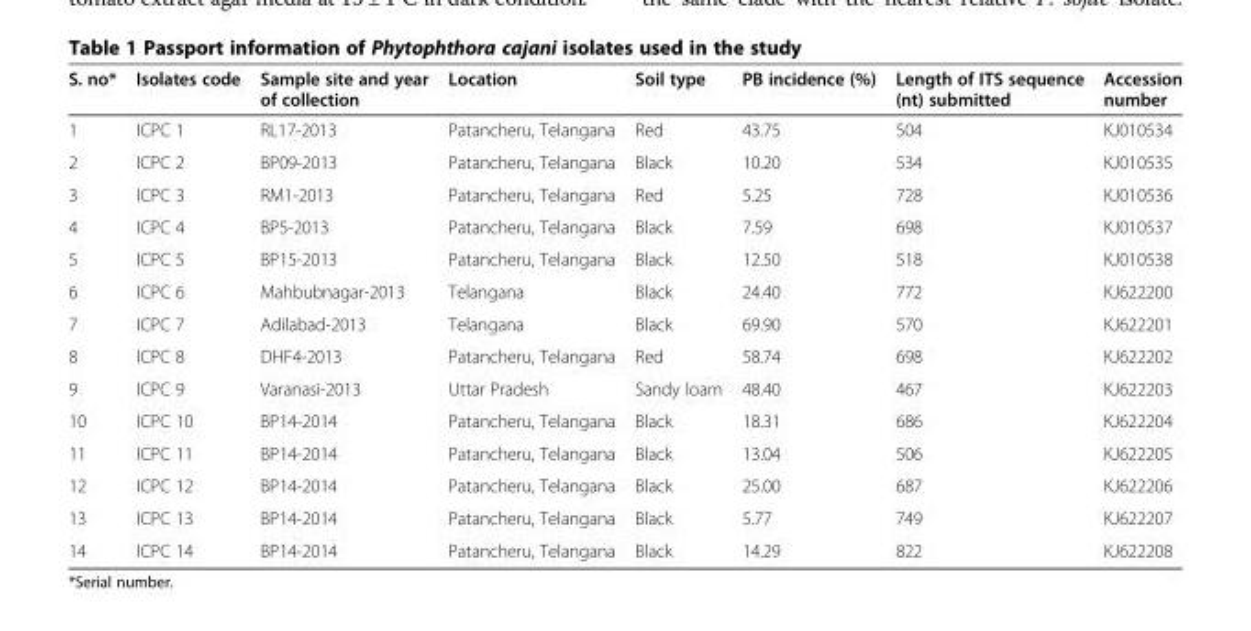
<table><thead><tr><td>S. no*</td><td>Isolates code</td><td>Sample site and year of collection</td><td>Location</td><td>Soil type</td><td>PB incidence (%)</td><td>Length of ITS sequence (nt) submitted</td><td>Accession number</td></tr></thead><tbody><tr><td>1</td><td>ICPC 1</td><td>RL17-2013</td><td>Patancheru, Telangana</td><td>Red</td><td>43.75</td><td>504</td><td>KJ010534</td></tr><tr><td>2</td><td>ICPC 2</td><td>BP09-2013</td><td>Patancheru, Telangana</td><td>Black</td><td>10.20</td><td>534</td><td>KJ010535</td></tr><tr><td>3</td><td>ICPC 3</td><td>RM1-2013</td><td>Patancheru, Telangana</td><td>Red</td><td>5.25</td><td>728</td><td>KJ010536</td></tr><tr><td>4</td><td>ICPC 4</td><td>BP5-2013</td><td>Patancheru, Telangana</td><td>Black</td><td>7.59</td><td>698</td><td>KJ010537</td></tr><tr><td>5</td><td>ICPC 5</td><td>BP15-2013</td><td>Patancheru, Telangana</td><td>Black</td><td>12.50</td><td>518</td><td>KJ010538</td></tr><tr><td>6</td><td>ICPC 6</td><td>Mahbubnagar-2013</td><td>Telangana</td><td>Black</td><td>24.40</td><td>772</td><td>KJ622200</td></tr><tr><td>7</td><td>ICPC 7</td><td>Adilabad-2013</td><td>Telangana</td><td>Black</td><td>69.90</td><td>570</td><td>KJ622201</td></tr><tr><td>8</td><td>ICPC 8</td><td>DHF4-2013</td><td>Patancheru, Telangana</td><td>Red</td><td>58.74</td><td>698</td><td>KJ622202</td></tr><tr><td>9</td><td>ICPC 9</td><td>Varanasi-2013</td><td>Uttar Pradesh</td><td>Sandy loam</td><td>48.40</td><td>467</td><td>KJ622203</td></tr><tr><td>10</td><td>ICPC 10</td><td>BP14-2014</td><td>Patancheru, Telangana</td><td>Black</td><td>18.31</td><td>686</td><td>KJ622204</td></tr><tr><td>11</td><td>ICPC 11</td><td>BP14-2014</td><td>Patancheru, Telangana</td><td>Black</td><td>13.04</td><td>506</td><td>KJ622205</td></tr><tr><td>12</td><td>ICPC 12</td><td>BP14-2014</td><td>Patancheru, Telangana</td><td>Black</td><td>25.00</td><td>687</td><td>KJ622206</td></tr><tr><td>13</td><td>ICPC 13</td><td>BP14-2014</td><td>Patancheru, Telangana</td><td>Black</td><td>5.77</td><td>749</td><td>KJ622207</td></tr><tr><td>14</td><td>ICPC 14</td><td>BP14-2014</td><td>Patancheru, Telangana</td><td>Black</td><td>14.29</td><td>822</td><td>KJ622208</td></tr></tbody></table>